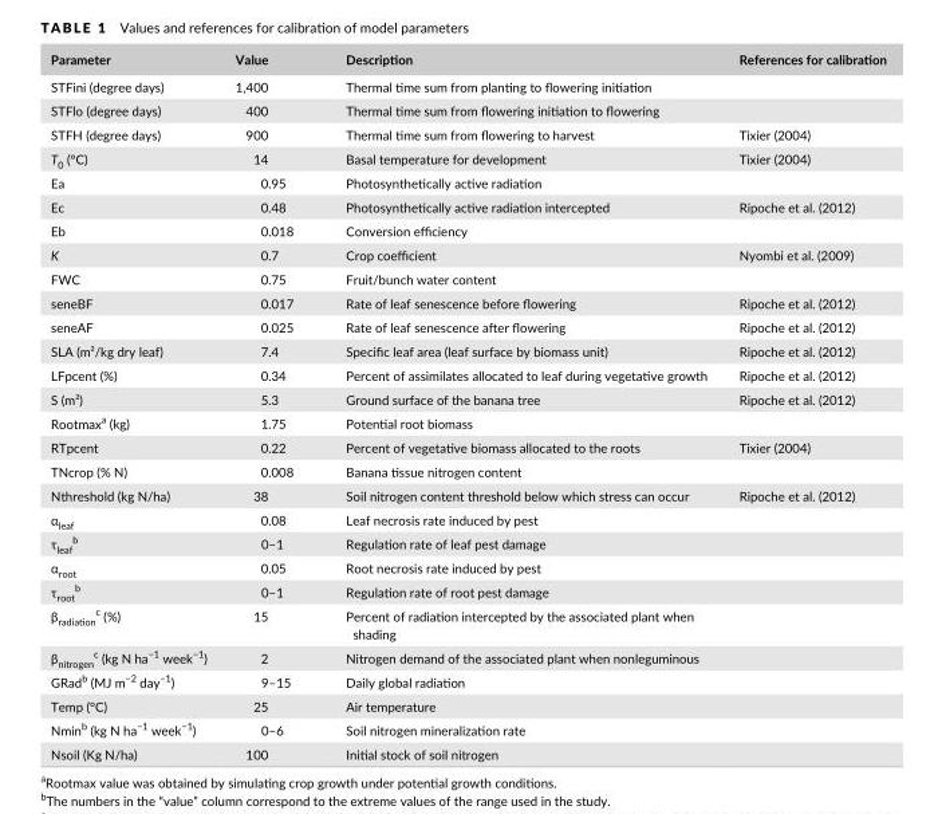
<table><thead><tr><td>Parameter</td><td>Value</td><td>Description</td><td>References for calibration</td></tr></thead><tbody><tr><td>STFini (degree days)</td><td>1,400</td><td>Thermal time sum from planting to flowering initiation</td><td></td></tr><tr><td>STFlo (degree days)</td><td>400</td><td>Thermal time sum from flowering initiation to flowering</td><td></td></tr><tr><td>STFH (degree days)</td><td>900</td><td>Thermal time sum from flowering to harvest</td><td>Tixier (2004)</td></tr><tr><td>T<sub>0</sub> (°C)</td><td>14</td><td>Basal temperature for development</td><td>Tixier (2004)</td></tr><tr><td>Ea</td><td>0.95</td><td>Photosynthetically active radiation</td><td></td></tr><tr><td>Ec</td><td>0.48</td><td>Photosynthetically active radiation intercepted</td><td>Ripoche et al. (2012)</td></tr><tr><td>Eb</td><td>0.018</td><td>Conversion efficiency</td><td></td></tr><tr><td>K</td><td>0.7</td><td>Crop coefficient</td><td>Nyombi et al. (2009)</td></tr><tr><td>FWC</td><td>0.75</td><td>Fruit/bunch water content</td><td></td></tr><tr><td>seneBF</td><td>0.017</td><td>Rate of leaf senescence before flowering</td><td>Ripoche et al. (2012)</td></tr><tr><td>seneAF</td><td>0.025</td><td>Rate of leaf senescence after flowering</td><td>Ripoche et al. (2012)</td></tr><tr><td>SLA (m²/kg dry leaf)</td><td>7.4</td><td>Specific leaf area (leaf surface by biomass unit)</td><td>Ripoche et al. (2012)</td></tr><tr><td>LFpcent (%)</td><td>0.34</td><td>Percent of assimilates allocated to leaf during vegetative growth</td><td>Ripoche et al. (2012)</td></tr><tr><td>S (m²)</td><td>5.3</td><td>Ground surface of the banana tree</td><td>Ripoche et al. (2012)</td></tr><tr><td>Rootmax<sup>a</sup> (kg)</td><td>1.75</td><td>Potential root biomass</td><td></td></tr><tr><td>RTpcent</td><td>0.22</td><td>Percent of vegetative biomass allocated to the roots</td><td>Tixier (2004)</td></tr><tr><td>TNcrop (% N)</td><td>0.008</td><td>Banana tissue nitrogen content</td><td></td></tr><tr><td>Nthreshold (kg N/ha)</td><td>38</td><td>Soil nitrogen content threshold below which stress can occur</td><td>Ripoche et al. (2012)</td></tr><tr><td>α<sub>leaf</sub></td><td>0.08</td><td>Leaf necrosis rate induced by pest</td><td></td></tr><tr><td>τ<sub>leaf</sub> b</td><td>0–1</td><td>Regulation rate of leaf pest damage</td><td></td></tr><tr><td>α<sub>root</sub></td><td>0.05</td><td>Root necrosis rate induced by pest</td><td></td></tr><tr><td>τ<sub>root</sub> b</td><td>0–1</td><td>Regulation rate of root pest damage</td><td></td></tr><tr><td>β<sub>radiation</sub> c (%)</td><td>15</td><td>Percent of radiation intercepted by the associated plant when shading</td><td></td></tr><tr><td>β<sub>nitrogen</sub> c (kg N ha<sup>−1</sup> week<sup>−1</sup>)</td><td>2</td><td>Nitrogen demand of the associated plant when nonleguminous</td><td></td></tr><tr><td>GRad<sup>b</sup> (MJ m<sup>−2</sup> day<sup>−1</sup>)</td><td>9–15</td><td>Daily global radiation</td><td></td></tr><tr><td>Temp (°C)</td><td>25</td><td>Air temperature</td><td></td></tr><tr><td>Nmin<sup>b</sup> (kg N ha<sup>−1</sup> week<sup>−1</sup>)</td><td>0–6</td><td>Soil nitrogen mineralization rate</td><td></td></tr><tr><td>Nsoil (Kg N/ha)</td><td>100</td><td>Initial stock of soil nitrogen</td><td></td></tr></tbody></table>